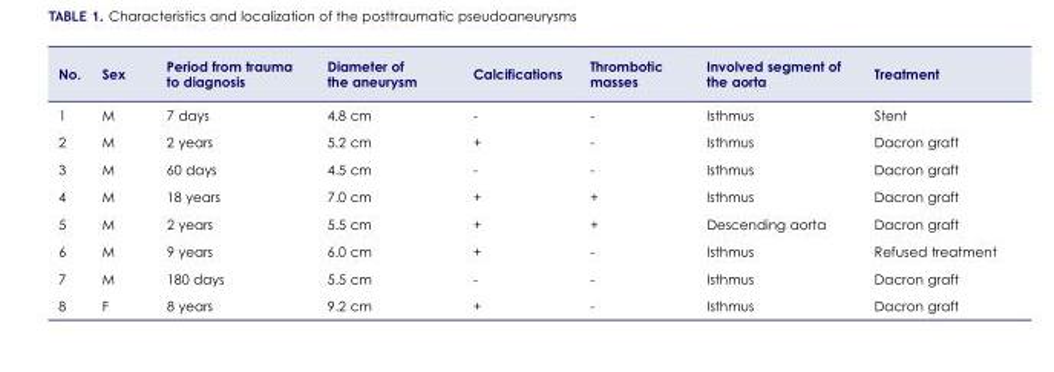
<table><thead><tr><td>No.</td><td>Sex</td><td>Period from trauma to diagnosis</td><td>Diameter of the aneurysm</td><td>Calcifications</td><td>Thrombotic masses</td><td>Involved segment of the aorta</td><td>Treatment</td></tr></thead><tbody><tr><td>1</td><td>M</td><td>7 days</td><td>4.8 cm</td><td>-</td><td>-</td><td>Isthmus</td><td>Stent</td></tr><tr><td>2</td><td>M</td><td>2 years</td><td>5.2 cm</td><td>+</td><td>-</td><td>Isthmus</td><td>Dacron graft</td></tr><tr><td>3</td><td>M</td><td>60 days</td><td>4.5 cm</td><td>-</td><td>-</td><td>Isthmus</td><td>Dacron graft</td></tr><tr><td>4</td><td>M</td><td>18 years</td><td>7.0 cm</td><td>+</td><td>+</td><td>Isthmus</td><td>Dacron graft</td></tr><tr><td>5</td><td>M</td><td>2 years</td><td>5.5 cm</td><td>+</td><td>+</td><td>Descending aorta</td><td>Dacron graft</td></tr><tr><td>6</td><td>M</td><td>9 years</td><td>6.0 cm</td><td>+</td><td>-</td><td>Isthmus</td><td>Refused treatment</td></tr><tr><td>7</td><td>M</td><td>180 days</td><td>5.5 cm</td><td>-</td><td>-</td><td>Isthmus</td><td>Dacron graft</td></tr><tr><td>8</td><td>F</td><td>8 years</td><td>9.2 cm</td><td>+</td><td>-</td><td>Isthmus</td><td>Dacron graft</td></tr></tbody></table>